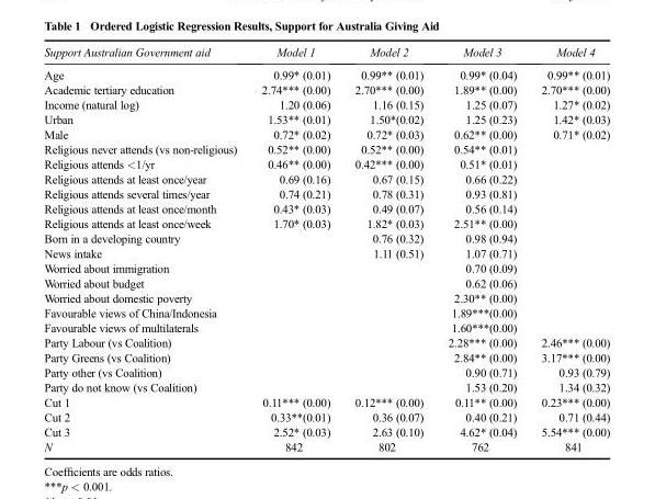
<table><thead><tr><td>Support Australian Government aid</td><td>Model 1</td><td>Model 2</td><td>Model 3</td><td>Model 4</td></tr></thead><tbody><tr><td>Age</td><td>0.99* (0.01)</td><td>0.99** (0.01)</td><td>0.99* (0.04)</td><td>0.99** (0.01)</td></tr><tr><td>Academic tertiary education</td><td>2.74*** (0.00)</td><td>2.70*** (0.00)</td><td>1.89** (0.00)</td><td>2.70*** (0.00)</td></tr><tr><td>Income (natural log)</td><td>1.20 (0.06)</td><td>1.16 (0.15)</td><td>1.25 (0.07)</td><td>1.27* (0.02)</td></tr><tr><td>Urban</td><td>1.53** (0.01)</td><td>1.50*(0.02)</td><td>1.25 (0.23)</td><td>1.42* (0.03)</td></tr><tr><td>Male</td><td>0.72* (0.02)</td><td>0.72* (0.03)</td><td>0.62** (0.00)</td><td>0.71* (0.02)</td></tr><tr><td>Religious never attends (vs non-religious)</td><td>0.52** (0.00)</td><td>0.52** (0.00)</td><td>0.54** (0.01)</td><td></td></tr><tr><td>Religious attends &lt;1/yr</td><td>0.46** (0.00)</td><td>0.42*** (0.00)</td><td>0.51* (0.01)</td><td></td></tr><tr><td>Religious attends at least once/year</td><td>0.69 (0.16)</td><td>0.67 (0.15)</td><td>0.66 (0.22)</td><td></td></tr><tr><td>Religious attends several times/year</td><td>0.74 (0.21)</td><td>0.78 (0.31)</td><td>0.93 (0.81)</td><td></td></tr><tr><td>Religious attends at least once/month</td><td>0.43* (0.03)</td><td>0.49 (0.07)</td><td>0.56 (0.14)</td><td></td></tr><tr><td>Religious attends at least once/week</td><td>1.70* (0.03)</td><td>1.82* (0.03)</td><td>2.51** (0.00)</td><td></td></tr><tr><td>Born in a developing country</td><td></td><td>0.76 (0.32)</td><td>0.98 (0.94)</td><td></td></tr><tr><td>News intake</td><td></td><td>1.11 (0.51)</td><td>1.07 (0.71)</td><td></td></tr><tr><td>Worried about immigration</td><td></td><td></td><td>0.70 (0.09)</td><td></td></tr><tr><td>Worried about budget</td><td></td><td></td><td>0.62 (0.06)</td><td></td></tr><tr><td>Worried about domestic poverty</td><td></td><td></td><td>2.30** (0.00)</td><td></td></tr><tr><td>Favourable views of China/Indonesia</td><td></td><td></td><td>1.89***(0.00)</td><td></td></tr><tr><td>Favourable views of multilaterals</td><td></td><td></td><td>1.60***(0.00)</td><td></td></tr><tr><td>Party Labour (vs Coalition)</td><td></td><td></td><td>2.28*** (0.00)</td><td>2.46*** (0.00)</td></tr><tr><td>Party Greens (vs Coalition)</td><td></td><td></td><td>2.84** (0.00)</td><td>3.17*** (0.00)</td></tr><tr><td>Party other (vs Coalition)</td><td></td><td></td><td>0.90 (0.71)</td><td>0.93 (0.79)</td></tr><tr><td>Party do not know (vs Coalition)</td><td></td><td></td><td>1.53 (0.20)</td><td>1.34 (0.32)</td></tr><tr><td>Cut 1</td><td>0.11*** (0.00)</td><td>0.12*** (0.00)</td><td>0.11** (0.00)</td><td>0.23*** (0.00)</td></tr><tr><td>Cut 2</td><td>0.33**(0.01)</td><td>0.36 (0.07)</td><td>0.40 (0.21)</td><td>0.71 (0.44)</td></tr><tr><td>Cut 3</td><td>2.52* (0.03)</td><td>2.63 (0.10)</td><td>4.62* (0.04)</td><td>5.54*** (0.00)</td></tr><tr><td>N</td><td>842</td><td>802</td><td>762</td><td>841</td></tr></tbody></table>